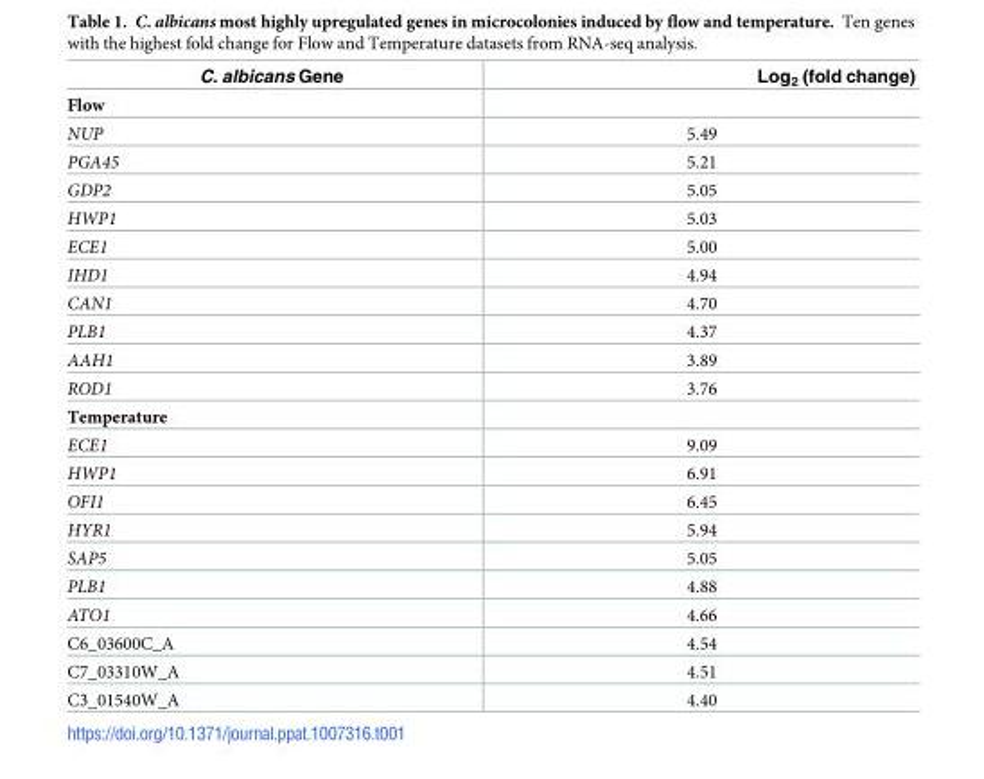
<table><thead><tr><td>C. albicans Gene</td><td>Log<sub>2</sub> (fold change)</td></tr></thead><tbody><tr><td colspan="2">Flow</td></tr><tr><td>NUP</td><td>5.49</td></tr><tr><td>PGA45</td><td>5.21</td></tr><tr><td>GDP2</td><td>5.05</td></tr><tr><td>HWP1</td><td>5.03</td></tr><tr><td>ECE1</td><td>5.00</td></tr><tr><td>IHD1</td><td>4.94</td></tr><tr><td>CAN1</td><td>4.70</td></tr><tr><td>PLB1</td><td>4.37</td></tr><tr><td>AAH1</td><td>3.89</td></tr><tr><td>ROD1</td><td>3.76</td></tr><tr><td colspan="2">Temperature</td></tr><tr><td>ECE1</td><td>9.09</td></tr><tr><td>HWP1</td><td>6.91</td></tr><tr><td>OFI1</td><td>6.45</td></tr><tr><td>HYR1</td><td>5.94</td></tr><tr><td>SAP5</td><td>5.05</td></tr><tr><td>PLB1</td><td>4.88</td></tr><tr><td>ATO1</td><td>4.66</td></tr><tr><td>C6_03600C_A</td><td>4.54</td></tr><tr><td>C7_03310W_A</td><td>4.51</td></tr><tr><td>C3_01540W_A</td><td>4.40</td></tr></tbody></table>